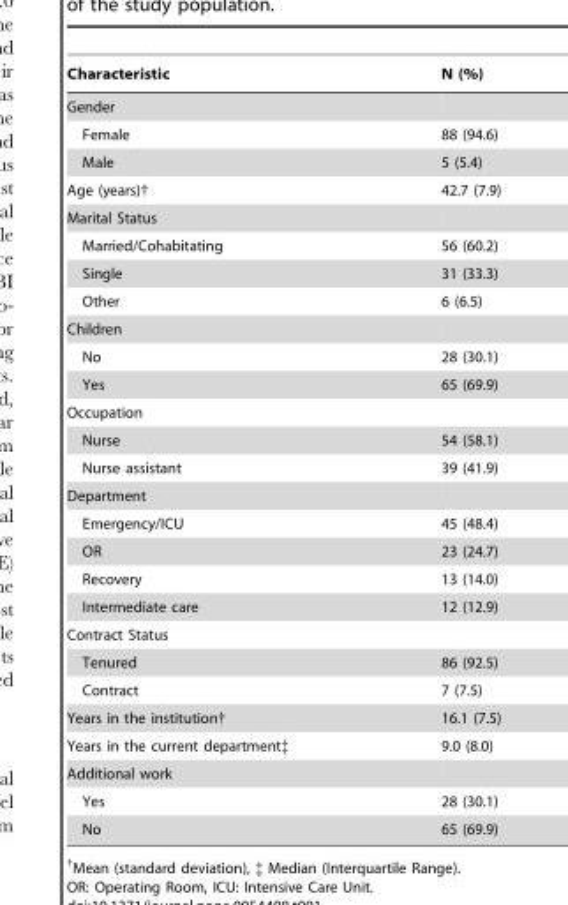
<table><thead><tr><td>Characteristic</td><td>N (%)</td></tr></thead><tbody><tr><td colspan="2">Gender</td></tr><tr><td>Female</td><td>88 (94.6)</td></tr><tr><td>Male</td><td>5 (5.4)</td></tr><tr><td>Age (years)†</td><td>42.7 (7.9)</td></tr><tr><td colspan="2">Marital Status</td></tr><tr><td>Married/Cohabitating</td><td>56 (60.2)</td></tr><tr><td>Single</td><td>31 (33.3)</td></tr><tr><td>Other</td><td>6 (6.5)</td></tr><tr><td colspan="2">Children</td></tr><tr><td>No</td><td>28 (30.1)</td></tr><tr><td>Yes</td><td>65 (69.9)</td></tr><tr><td colspan="2">Occupation</td></tr><tr><td>Nurse</td><td>54 (58.1)</td></tr><tr><td>Nurse assistant</td><td>39 (41.9)</td></tr><tr><td colspan="2">Department</td></tr><tr><td>Emergency/ICU</td><td>45 (48.4)</td></tr><tr><td>OR</td><td>23 (24.7)</td></tr><tr><td>Recovery</td><td>13 (14.0)</td></tr><tr><td>Intermediate care</td><td>12 (12.9)</td></tr><tr><td colspan="2">Contract Status</td></tr><tr><td>Tenured</td><td>86 (92.5)</td></tr><tr><td>Contract</td><td>7 (7.5)</td></tr><tr><td>Years in the institution†</td><td>16.1 (7.5)</td></tr><tr><td>Years in the current department‡</td><td>9.0 (8.0)</td></tr><tr><td colspan="2">Additional work</td></tr><tr><td>Yes</td><td>28 (30.1)</td></tr><tr><td>No</td><td>65 (69.9)</td></tr></tbody></table>